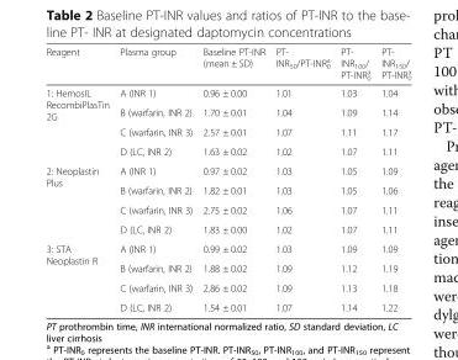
<table><thead><tr><td>Reagent</td><td>Plasma group</td><td>Baseline PT-INR (mean ± SD)</td><td>PT- INR<sub>50</sub>/PT-INR<sub>0</sub> <sup>a</sup></td><td>PT- INR<sub>100</sub>/ PT-INR<sub>0</sub> <sup>a</sup></td><td>PT- INR<sub>150</sub>/ PT-INR<sub>0</sub> <sup>a</sup></td></tr></thead><tbody><tr><td rowspan="4">1: HemosIL RecombiPlasTin 2G</td><td>A (INR 1)</td><td>0.96 ± 0.00</td><td>1.01</td><td>1.03</td><td>1.04</td></tr><tr><td>B (warfarin, INR 2)</td><td>1.70 ± 0.01</td><td>1.04</td><td>1.09</td><td>1.14</td></tr><tr><td>C (warfarin, INR 3)</td><td>2.57 ± 0.01</td><td>1.07</td><td>1.11</td><td>1.17</td></tr><tr><td>D (LC, INR 2)</td><td>1.63 ± 0.02</td><td>1.02</td><td>1.07</td><td>1.11</td></tr><tr><td rowspan="4">2: Neoplastin Plus</td><td>A (INR 1)</td><td>0.97 ± 0.02</td><td>1.03</td><td>1.05</td><td>1.09</td></tr><tr><td>B (warfarin, INR 2)</td><td>1.82 ± 0.01</td><td>1.03</td><td>1.05</td><td>1.06</td></tr><tr><td>C (warfarin, INR 3)</td><td>2.75 ± 0.02</td><td>1.06</td><td>1.07</td><td>1.11</td></tr><tr><td>D (LC, INR 2)</td><td>1.83 ± 0.00</td><td>1.02</td><td>1.07</td><td>1.11</td></tr><tr><td rowspan="4">3: STA Neoplastin R</td><td>A (INR 1)</td><td>0.99 ± 0.02</td><td>1.03</td><td>1.09</td><td>1.09</td></tr><tr><td>B (warfarin, INR 2)</td><td>1.88 ± 0.02</td><td>1.09</td><td>1.12</td><td>1.19</td></tr><tr><td>C (warfarin, INR 3)</td><td>2.86 ± 0.02</td><td>1.09</td><td>1.13</td><td>1.18</td></tr><tr><td>D (LC, INR 2)</td><td>1.54 ± 0.01</td><td>1.07</td><td>1.14</td><td>1.22</td></tr></tbody></table>